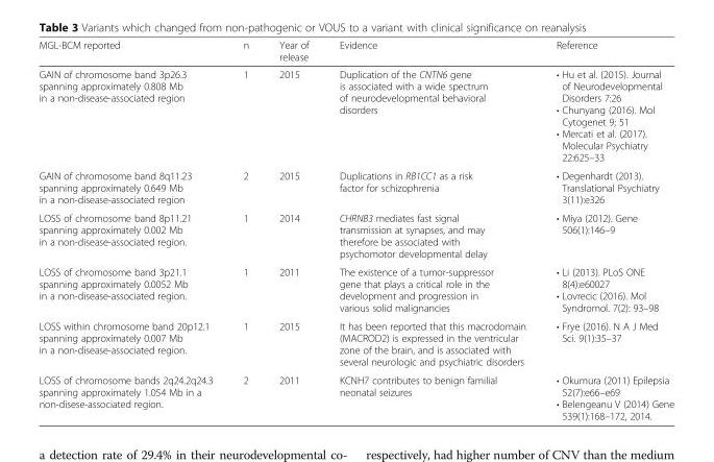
<table><thead><tr><td>MGL-BCM reported</td><td>n</td><td>Year of release</td><td>Evidence</td><td>Reference</td></tr></thead><tbody><tr><td>GAIN of chromosome band 3p26.3 spanning approximately 0.808 Mb in a non-disease-associated region</td><td>1</td><td>2015</td><td>Duplication of the CNTN6 gene is associated with a wide spectrum of neurodevelopmental behavioral disorders</td><td>• Hu et al. (2015). Journal of Neurodevelopmental Disorders 7:26 • Chunyang (2016). Mol Cytogenet 9; 51 • Mercati et al. (2017). Molecular Psychiatry 22:625–33</td></tr><tr><td>GAIN of chromosome band 8q11.23 spanning approximately 0.649 Mb in a non-disease-associated region</td><td>2</td><td>2015</td><td>Duplications in RB1CC1 as a risk factor for schizophrenia</td><td>• Degenhardt (2013). Translational Psychiatry 3(11):e326</td></tr><tr><td>LOSS of chromosome band 8p11.21 spanning approximately 0.002 Mb in a non-disease-associated region.</td><td>1</td><td>2014</td><td>CHRNB3 mediates fast signal transmission at synapses, and may therefore be associated with psychomotor developmental delay</td><td>• Miya (2012). Gene 506(1):146–9</td></tr><tr><td>LOSS of chromosome band 3p21.1 spanning approximately 0.0052 Mb in a non-disease-associated region.</td><td>1</td><td>2011</td><td>The existence of a tumor-suppressor gene that plays a critical role in the development and progression in various solid malignancies</td><td>• Li (2013). PLoS ONE 8(4):e60027 • Lovrecic (2016). Mol Syndromol. 7(2): 93–98</td></tr><tr><td>LOSS within chromosome band 20p12.1 spanning approximately 0.007 Mb in a non-disease-associated region.</td><td>1</td><td>2015</td><td>It has been reported that this macrodomain (MACROD2) is expressed in the ventricular zone of the brain, and is associated with several neurologic and psychiatric disorders</td><td>• Frye (2016). N A J Med Sci. 9(1):35–37</td></tr><tr><td>LOSS of chromosome bands 2q24.2q24.3 spanning approximately 1.054 Mb in a non-disese-associated region.</td><td>2</td><td>2011</td><td>KCNH7 contributes to benign familial neonatal seizures</td><td>• Okumura (2011) Epilepsia 52(7):e66–e69 • Belengeanu V (2014) Gene 539(1):168–172, 2014.</td></tr></tbody></table>